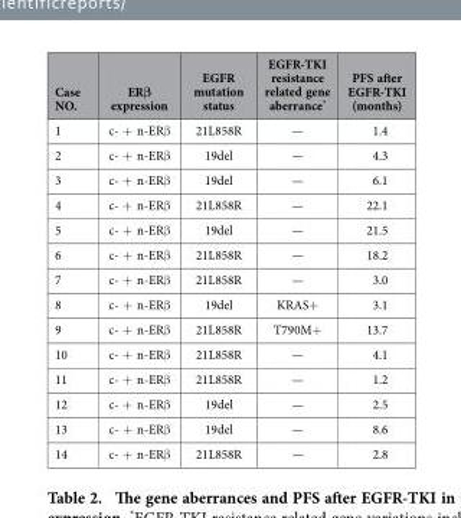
<table><thead><tr><td>Case NO.</td><td>ERβ expression</td><td>EGFR mutation status</td><td>EGFR-TKI resistance related gene aberrance*</td><td>PFS after EGFR-TKI (months)</td></tr></thead><tbody><tr><td>1</td><td>c- + n-ERβ</td><td>21L858R</td><td>—</td><td>1.4</td></tr><tr><td>2</td><td>c- + n-ERβ</td><td>19del</td><td>—</td><td>4.3</td></tr><tr><td>3</td><td>c- + n-ERβ</td><td>19del</td><td>—</td><td>6.1</td></tr><tr><td>4</td><td>c- + n-ERβ</td><td>21L858R</td><td>—</td><td>22.1</td></tr><tr><td>5</td><td>c- + n-ERβ</td><td>19del</td><td>—</td><td>21.5</td></tr><tr><td>6</td><td>c- + n-ERβ</td><td>21L858R</td><td>—</td><td>18.2</td></tr><tr><td>7</td><td>c- + n-ERβ</td><td>21L858R</td><td>—</td><td>3.0</td></tr><tr><td>8</td><td>c- + n-ERβ</td><td>19del</td><td>KRAS+</td><td>3.1</td></tr><tr><td>9</td><td>c- + n-ERβ</td><td>21L858R</td><td>T790M+</td><td>13.7</td></tr><tr><td>10</td><td>c- + n-ERβ</td><td>21L858R</td><td>—</td><td>4.1</td></tr><tr><td>11</td><td>c- + n-ERβ</td><td>21L858R</td><td>—</td><td>1.2</td></tr><tr><td>12</td><td>c- + n-ERβ</td><td>19del</td><td>—</td><td>2.5</td></tr><tr><td>13</td><td>c- + n-ERβ</td><td>19del</td><td>—</td><td>8.6</td></tr><tr><td>14</td><td>c- + n-ERβ</td><td>21L858R</td><td>—</td><td>2.8</td></tr></tbody></table>